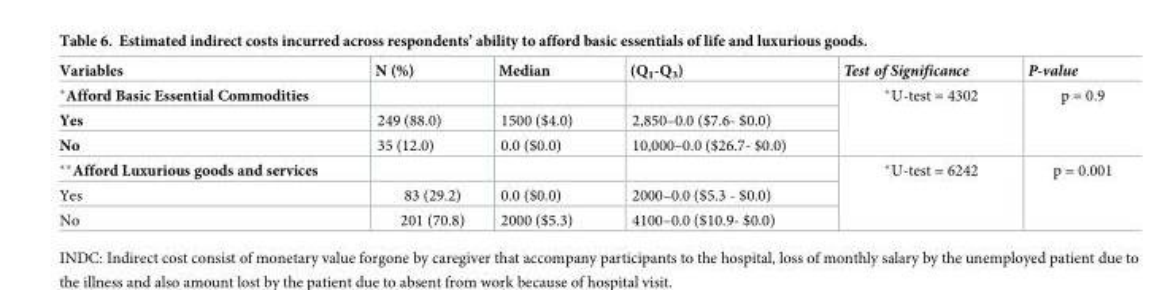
<table><thead><tr><td>Variables</td><td>N (%)</td><td>Median</td><td>(Q<sub>1</sub>-Q<sub>3</sub>)</td><td>Test of Significance</td><td>P-value</td></tr></thead><tbody><tr><td colspan="4">*Afford Basic Essential Commodities</td><td rowspan="3">*U-test = 4302</td><td rowspan="3">p = 0.9</td></tr><tr><td>Yes</td><td>249 (88.0)</td><td>1500 ($4.0)</td><td>2,850–0.0 ($7.6- $0.0)</td></tr><tr><td>No</td><td>35 (12.0)</td><td>0.0 ($0.0)</td><td>10,000–0.0 ($26.7- $0.0)</td></tr><tr><td colspan="4">**Afford Luxurious goods and services</td><td rowspan="3">*U-test = 6242</td><td rowspan="3">p = 0.001</td></tr><tr><td>Yes</td><td>83 (29.2)</td><td>0.0 ($0.0)</td><td>2000–0.0 ($5.3 - $0.0)</td></tr><tr><td>No</td><td>201 (70.8)</td><td>2000 ($5.3)</td><td>4100–0.0 ($10.9- $0.0)</td></tr></tbody></table>